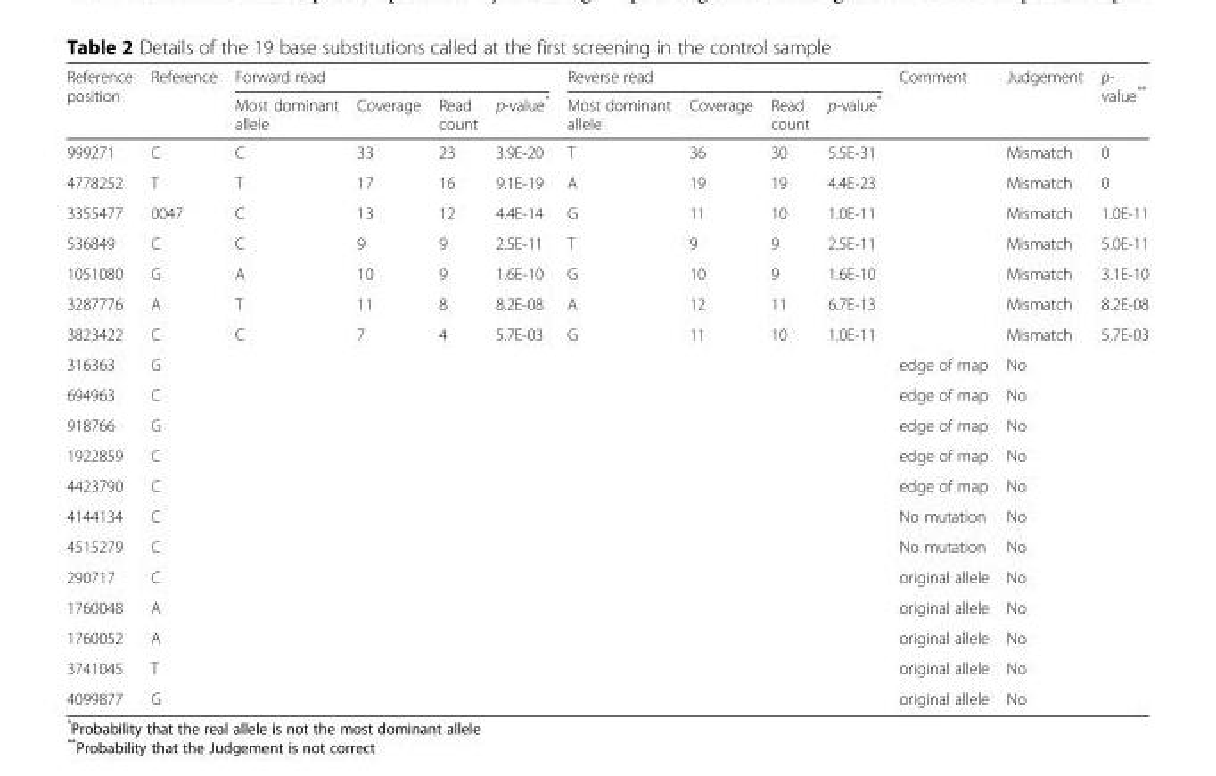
<table><thead><tr><td rowspan="2">Reference position</td><td rowspan="2">Reference</td><td colspan="4">Forward read</td><td colspan="4">Reverse read</td><td rowspan="2">Comment</td><td rowspan="2">Judgement</td><td rowspan="2">p- value**</td></tr><tr><td>Most dominant allele</td><td>Coverage</td><td>Read count</td><td>p-value*</td><td>Most dominant allele</td><td>Coverage</td><td>Read count</td><td>p-value*</td></tr></thead><tbody><tr><td>999271</td><td>C</td><td>C</td><td>33</td><td>23</td><td>3.9E-20</td><td>T</td><td>36</td><td>30</td><td>5.5E-31</td><td></td><td>Mismatch</td><td>0</td></tr><tr><td>4778252</td><td>T</td><td>T</td><td>17</td><td>16</td><td>9.1E-19</td><td>A</td><td>19</td><td>19</td><td>4.4E-23</td><td></td><td>Mismatch</td><td>0</td></tr><tr><td>3355477</td><td>0047</td><td>C</td><td>13</td><td>12</td><td>4.4E-14</td><td>G</td><td>11</td><td>10</td><td>1.0E-11</td><td></td><td>Mismatch</td><td>1.0E-11</td></tr><tr><td>536849</td><td>C</td><td>C</td><td>9</td><td>9</td><td>2.5E-11</td><td>T</td><td>9</td><td>9</td><td>2.5E-11</td><td></td><td>Mismatch</td><td>5.0E-11</td></tr><tr><td>1051080</td><td>G</td><td>A</td><td>10</td><td>9</td><td>1.6E-10</td><td>G</td><td>10</td><td>9</td><td>1.6E-10</td><td></td><td>Mismatch</td><td>3.1E-10</td></tr><tr><td>3287776</td><td>A</td><td>T</td><td>11</td><td>8</td><td>8.2E-08</td><td>A</td><td>12</td><td>11</td><td>6.7E-13</td><td></td><td>Mismatch</td><td>8.2E-08</td></tr><tr><td>3823422</td><td>C</td><td>C</td><td>7</td><td>4</td><td>5.7E-03</td><td>G</td><td>11</td><td>10</td><td>1.0E-11</td><td></td><td>Mismatch</td><td>5.7E-03</td></tr><tr><td>316363</td><td>G</td><td></td><td></td><td></td><td></td><td></td><td></td><td></td><td></td><td>edge of map</td><td>No</td><td></td></tr><tr><td>694963</td><td>C</td><td></td><td></td><td></td><td></td><td></td><td></td><td></td><td></td><td>edge of map</td><td>No</td><td></td></tr><tr><td>918766</td><td>G</td><td></td><td></td><td></td><td></td><td></td><td></td><td></td><td></td><td>edge of map</td><td>No</td><td></td></tr><tr><td>1922859</td><td>C</td><td></td><td></td><td></td><td></td><td></td><td></td><td></td><td></td><td>edge of map</td><td>No</td><td></td></tr><tr><td>4423790</td><td>C</td><td></td><td></td><td></td><td></td><td></td><td></td><td></td><td></td><td>edge of map</td><td>No</td><td></td></tr><tr><td>4144134</td><td>C</td><td></td><td></td><td></td><td></td><td></td><td></td><td></td><td></td><td>No mutation</td><td>No</td><td></td></tr><tr><td>4515279</td><td>C</td><td></td><td></td><td></td><td></td><td></td><td></td><td></td><td></td><td>No mutation</td><td>No</td><td></td></tr><tr><td>290717</td><td>C</td><td></td><td></td><td></td><td></td><td></td><td></td><td></td><td></td><td>original allele</td><td>No</td><td></td></tr><tr><td>1760048</td><td>A</td><td></td><td></td><td></td><td></td><td></td><td></td><td></td><td></td><td>original allele</td><td>No</td><td></td></tr><tr><td>1760052</td><td>A</td><td></td><td></td><td></td><td></td><td></td><td></td><td></td><td></td><td>original allele</td><td>No</td><td></td></tr><tr><td>3741045</td><td>T</td><td></td><td></td><td></td><td></td><td></td><td></td><td></td><td></td><td>original allele</td><td>No</td><td></td></tr><tr><td>4099877</td><td>G</td><td></td><td></td><td></td><td></td><td></td><td></td><td></td><td></td><td>original allele</td><td>No</td><td></td></tr></tbody></table>